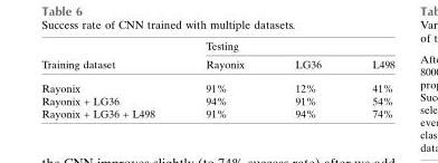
<table><thead><tr><td rowspan="2">Training dataset</td><td colspan="3">Testing</td></tr><tr><td>Rayonix</td><td>LG36</td><td>L498</td></tr></thead><tbody><tr><td>Rayonix</td><td>91%</td><td>12%</td><td>41%</td></tr><tr><td>Rayonix + LG36</td><td>94%</td><td>91%</td><td>54%</td></tr><tr><td>Rayonix + LG36 + L498</td><td>91%</td><td>94%</td><td>74%</td></tr></tbody></table>